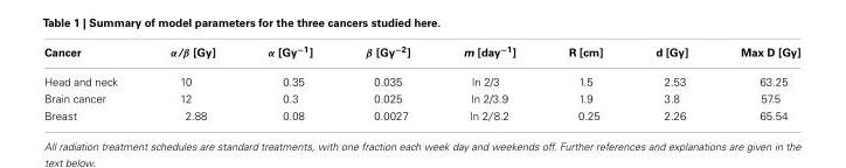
<table><thead><tr><td>Cancer</td><td>α/β [Gy]</td><td>α [Gy<sup>−1</sup>]</td><td>β [Gy<sup>−2</sup>]</td><td>m [day<sup>−1</sup>]</td><td>R [cm]</td><td>d [Gy]</td><td>Max D [Gy]</td></tr></thead><tbody><tr><td>Head and neck</td><td>10</td><td>0.35</td><td>0.035</td><td>ln 2/3</td><td>1.5</td><td>2.53</td><td>63.25</td></tr><tr><td>Brain cancer</td><td>12</td><td>0.3</td><td>0.025</td><td>ln 2/3.9</td><td>1.9</td><td>3.8</td><td>57.5</td></tr><tr><td>Breast</td><td>2.88</td><td>0.08</td><td>0.0027</td><td>ln 2/ 8.2</td><td>0.25</td><td>2.26</td><td>65.54</td></tr></tbody></table>